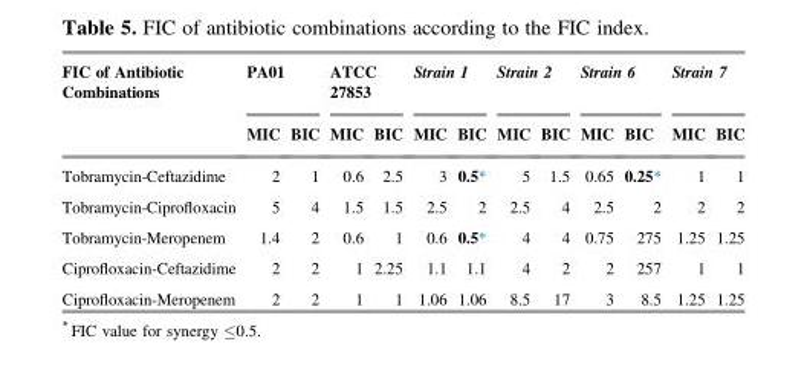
<table><thead><tr><td rowspan="2">FIC of Antibiotic Combinations</td><td colspan="2">PA01</td><td colspan="2">ATCC 27853</td><td colspan="2">Strain 1</td><td colspan="2">Strain 2</td><td colspan="2">Strain 6</td><td colspan="2">Strain 7</td></tr><tr><td>MIC</td><td>BIC</td><td>MIC</td><td>BIC</td><td>MIC</td><td>BIC</td><td>MIC</td><td>BIC</td><td>MIC</td><td>BIC</td><td>MIC</td><td>BIC</td></tr></thead><tbody><tr><td>Tobramycin-Ceftazidime</td><td>2</td><td>1</td><td>0.6</td><td>2.5</td><td>3</td><td>0.5*</td><td>5</td><td>1.5</td><td>0.65</td><td>0.25*</td><td>1</td><td>1</td></tr><tr><td>Tobramycin-Ciprofloxacin</td><td>5</td><td>4</td><td>1.5</td><td>1.5</td><td>2.5</td><td>2</td><td>2.5</td><td>4</td><td>2.5</td><td>2</td><td>2</td><td>2</td></tr><tr><td>Tobramycin-Meropenem</td><td>1.4</td><td>2</td><td>0.6</td><td>1</td><td>0.6</td><td>0.5*</td><td>4</td><td>4</td><td>0.75</td><td>275</td><td>1.25</td><td>1.25</td></tr><tr><td>Ciprofloxacin-Ceftazidime</td><td>2</td><td>2</td><td>1</td><td>2.25</td><td>1.1</td><td>1.1</td><td>4</td><td>2</td><td>2</td><td>257</td><td>1</td><td>1</td></tr><tr><td>Ciprofloxacin-Meropenem</td><td>2</td><td>2</td><td>1</td><td>1</td><td>1.06</td><td>1.06</td><td>8.5</td><td>17</td><td>3</td><td>8.5</td><td>1.25</td><td>1.25</td></tr></tbody></table>